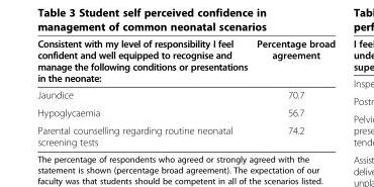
<table><thead><tr><td>Consistent with my level of responsibility I feel confident and well equipped to recognise and manage the following conditions or presentations in the neonate:</td><td>Percentage broad agreement</td></tr></thead><tbody><tr><td>Jaundice</td><td>70.7</td></tr><tr><td>Hypoglycaemia</td><td>56.7</td></tr><tr><td>Parental counselling regarding routine neonatal screening tests</td><td>74.2</td></tr></tbody></table>